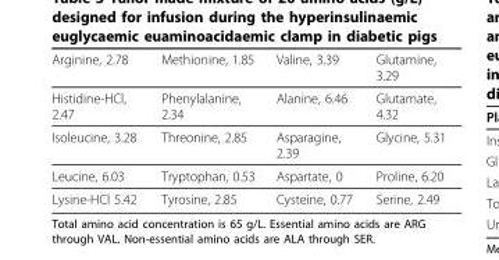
<table><thead><tr><td>Arginine, 2.78</td><td>Methionine, 1.85</td><td>Valine, 3.39</td><td>Glutamine, 3.29</td></tr></thead><tbody><tr><td>Histidine-HCl, 2.47</td><td>Phenylalanine, 2.34</td><td>Alanine, 6.46</td><td>Glutamate, 4.32</td></tr><tr><td>Isoleucine, 3.28</td><td>Threonine, 2.85</td><td>Asparagine, 2.39</td><td>Glycine, 5.31</td></tr><tr><td>Leucine, 6.03</td><td>Tryptophan, 0.53</td><td>Aspartate, 0</td><td>Proline, 6.20</td></tr><tr><td>Lysine-HCl 5.42</td><td>Tyrosine, 2.85</td><td>Cysteine, 0.77</td><td>Serine, 2.49</td></tr></tbody></table>